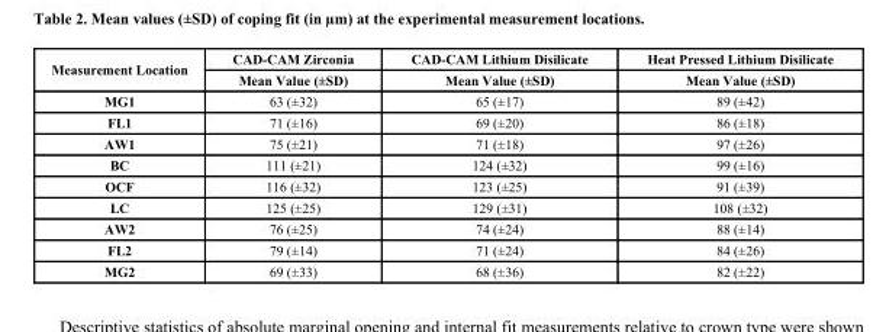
<table><thead><tr><td rowspan="2">Measurement Location</td><td rowspan="2">CAD-CAM Zirconia Mean Value (±SD)</td><td rowspan="2">CAD-CAM Lithium Disilicate Mean Value (±SD)</td><td rowspan="2">Heat Pressed Lithium Disilicate Mean Value (±SD)</td></tr><tr></tr></thead><tbody><tr><td>MG1</td><td>63 (±32)</td><td>65 (±17)</td><td>89 (±42)</td></tr><tr><td>FL1</td><td>71 (±16)</td><td>69 (±20)</td><td>86 (±18)</td></tr><tr><td>AW1</td><td>75 (±21)</td><td>71 (±18)</td><td>97 (±26)</td></tr><tr><td>BC</td><td>111 (±21)</td><td>124 (±32)</td><td>99 (±16)</td></tr><tr><td>OCF</td><td>116 (±32)</td><td>123 (±25)</td><td>91 (±39)</td></tr><tr><td>LC</td><td>125 (±25)</td><td>129 (±31)</td><td>108 (±32)</td></tr><tr><td>AW2</td><td>76 (±25)</td><td>74 (±24)</td><td>88 (±14)</td></tr><tr><td>FL2</td><td>79 (±14)</td><td>71 (±24)</td><td>84 (±26)</td></tr><tr><td>MG2</td><td>69 (±33)</td><td>68 (±36)</td><td>82 (±22)</td></tr></tbody></table>